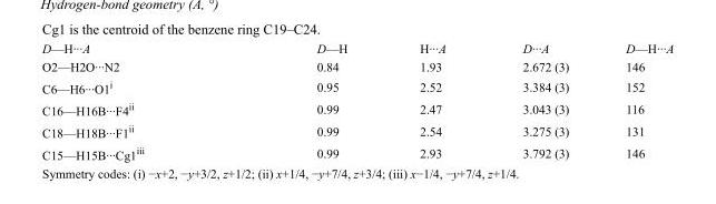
<table><tbody><tr><td>D—H···A</td><td>D—H</td><td>H···A</td><td>D···A</td><td>D—H···A</td></tr><tr><td>O2—H2O···N2</td><td>0.84</td><td>1.93</td><td>2.672 (3)</td><td>146</td></tr><tr><td>C6—H6···O1<sup>i</sup></td><td>0.95</td><td>2.52</td><td>3.384 (3)</td><td>152</td></tr><tr><td>C16—H16B···F4<sup>ii</sup></td><td>0.99</td><td>2.47</td><td>3.043 (3)</td><td>116</td></tr><tr><td>C18—H18B···F1<sup>ii</sup></td><td>0.99</td><td>2.54</td><td>3.275 (3)</td><td>131</td></tr><tr><td>C15—H15B···Cg1<sup>iii</sup></td><td>0.99</td><td>2.93</td><td>3.792 (3)</td><td>146</td></tr></tbody></table>